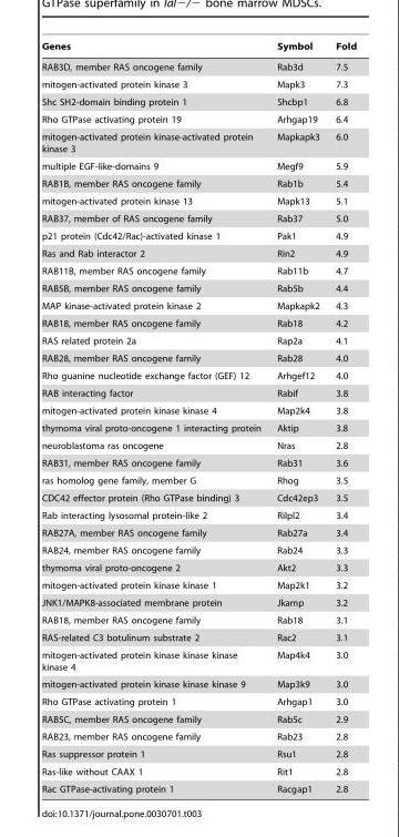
<table><thead><tr><td>Genes</td><td>Symbol</td><td>Fold</td></tr></thead><tbody><tr><td>RAB3D, member RAS oncogene family</td><td>Rab3d</td><td>7.5</td></tr><tr><td>mitogen-activated protein kinase 3</td><td>Mapk3</td><td>7.3</td></tr><tr><td>Shc SH2-domain binding protein 1</td><td>Shcbp1</td><td>6.8</td></tr><tr><td>Rho GTPase activating protein 19</td><td>Arhgap19</td><td>6.4</td></tr><tr><td>mitogen-activated protein kinase-activated protein kinase 3</td><td>Mapkapk3</td><td>6.0</td></tr><tr><td>multiple EGF-like-domains 9</td><td>Megf9</td><td>5.9</td></tr><tr><td>RAB1B, member RAS oncogene family</td><td>Rab1b</td><td>5.4</td></tr><tr><td>mitogen-activated protein kinase 13</td><td>Mapk13</td><td>5.1</td></tr><tr><td>RAB37, member of RAS oncogene family</td><td>Rab37</td><td>5.0</td></tr><tr><td>p21 protein (Cdc42/Rac)-activated kinase 1</td><td>Pak1</td><td>4.9</td></tr><tr><td>Ras and Rab interactor 2</td><td>Rin2</td><td>4.9</td></tr><tr><td>RAB11B, member RAS oncogene family</td><td>Rab11b</td><td>4.7</td></tr><tr><td>RAB5B, member RAS oncogene family</td><td>Rab5b</td><td>4.4</td></tr><tr><td>MAP kinase-activated protein kinase 2</td><td>Mapkapk2</td><td>4.3</td></tr><tr><td>RAB18, member RAS oncogene family</td><td>Rab18</td><td>4.2</td></tr><tr><td>RAS related protein 2a</td><td>Rap2a</td><td>4.1</td></tr><tr><td>RAB28, member RAS oncogene family</td><td>Rab28</td><td>4.0</td></tr><tr><td>Rho guanine nucleotide exchange factor (GEF) 12</td><td>Arhgef12</td><td>4.0</td></tr><tr><td>RAB interacting factor</td><td>Rabif</td><td>3.8</td></tr><tr><td>mitogen-activated protein kinase kinase 4</td><td>Map2k4</td><td>3.8</td></tr><tr><td>thymoma viral proto-oncogene 1 interacting protein</td><td>Aktip</td><td>3.8</td></tr><tr><td>neuroblastoma ras oncogene</td><td>Nras</td><td>2.8</td></tr><tr><td>RAB31, member RAS oncogene family</td><td>Rab31</td><td>3.6</td></tr><tr><td>ras homolog gene family, member G</td><td>Rhog</td><td>3.5</td></tr><tr><td>CDC42 effector protein (Rho GTPase binding) 3</td><td>Cdc42ep3</td><td>3.5</td></tr><tr><td>Rab interacting lysosomal protein-like 2</td><td>Rilpl2</td><td>3.4</td></tr><tr><td>RAB27A, member RAS oncogene family</td><td>Rab27a</td><td>3.4</td></tr><tr><td>RAB24, member RAS oncogene family</td><td>Rab24</td><td>3.3</td></tr><tr><td>thymoma viral proto-oncogene 2</td><td>Akt2</td><td>3.3</td></tr><tr><td>mitogen-activated protein kinase kinase 1</td><td>Map2k1</td><td>3.2</td></tr><tr><td>JNK1/MAPK8-associated membrane protein</td><td>Jkamp</td><td>3.2</td></tr><tr><td>RAB18, member RAS oncogene family</td><td>Rab18</td><td>3.1</td></tr><tr><td>RAS-related C3 botulinum substrate 2</td><td>Rac2</td><td>3.1</td></tr><tr><td>mitogen-activated protein kinase kinase kinase kinase 4</td><td>Map4k4</td><td>3.0</td></tr><tr><td>mitogen-activated protein kinase kinase kinase 9</td><td>Map3k9</td><td>3.0</td></tr><tr><td>Rho GTPase activating protein 1</td><td>Arhgap1</td><td>3.0</td></tr><tr><td>RAB5C, member RAS oncogene family</td><td>Rab5c</td><td>2.9</td></tr><tr><td>RAB23, member RAS oncogene family</td><td>Rab23</td><td>2.8</td></tr><tr><td>Ras suppressor protein 1</td><td>Rsu1</td><td>2.8</td></tr><tr><td>Ras-like without CAAX 1</td><td>Rit1</td><td>2.8</td></tr><tr><td>Rac GTPase-activating protein 1</td><td>Racgap1</td><td>2.8</td></tr></tbody></table>